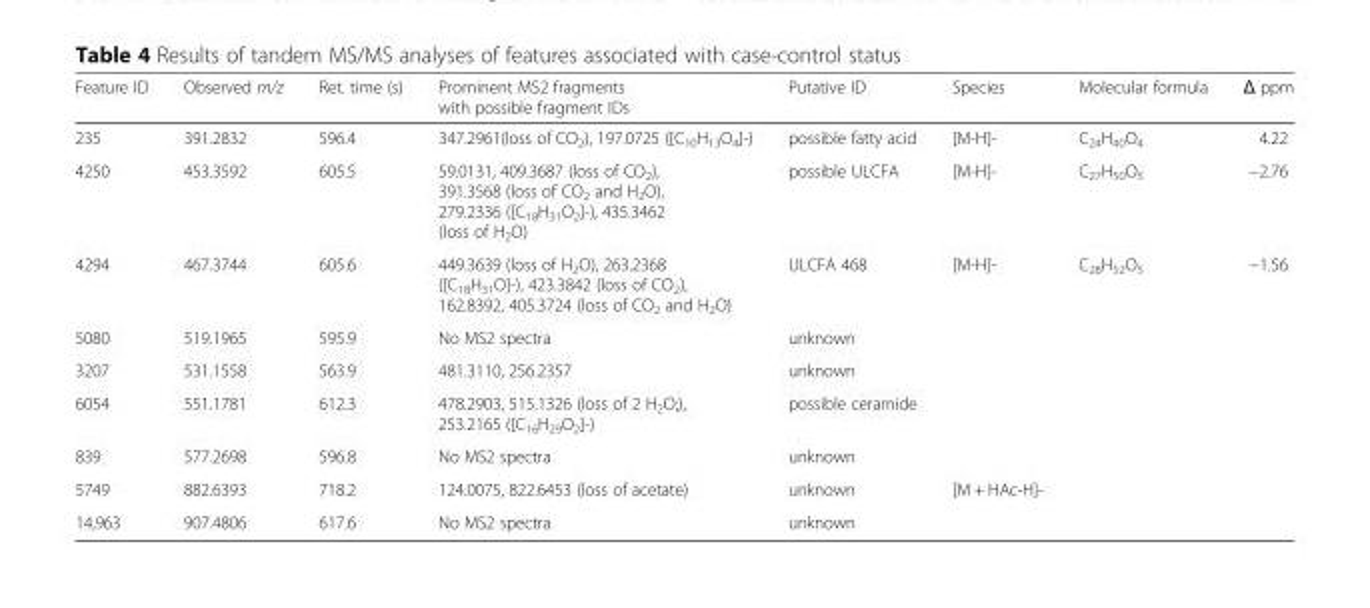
<table><thead><tr><td>Feature ID</td><td>Observed m/z</td><td>Ret. time (s)</td><td>Prominent MS2 fragments with possible fragment IDs</td><td>Putative ID</td><td>Species</td><td>Molecular formula</td><td>Δ ppm</td></tr></thead><tbody><tr><td>235</td><td>391.2832</td><td>596.4</td><td>347.2961(loss of CO<sub>2</sub>), 197.0725 ([C<sub>10</sub>H<sub>13</sub>O<sub>4</sub>]-)</td><td>possible fatty acid</td><td>[M-H]-</td><td>C<sub>24</sub>H<sub>40</sub>O<sub>4</sub></td><td>4.22</td></tr><tr><td>4250</td><td>453.3592</td><td>605.5</td><td>59.0131, 409.3687 (loss of CO<sub>2</sub>), 391.3568 (loss of CO<sub>2</sub> and H<sub>2</sub>O), 279.2336 ([C<sub>18</sub>H<sub>31</sub>O<sub>2</sub>]-), 435.3462 (loss of H<sub>2</sub>O)</td><td>possible ULCFA</td><td>[M-H]-</td><td>C<sub>27</sub>H<sub>50</sub>O<sub>5</sub></td><td>−2.76</td></tr><tr><td>4294</td><td>467.3744</td><td>605.6</td><td>449.3639 (loss of H<sub>2</sub>O), 263.2368 ([C<sub>18</sub>H<sub>31</sub>O]-), 423.3842 (loss of CO<sub>2</sub>), 162.8392, 405.3724 (loss of CO<sub>2</sub> and H<sub>2</sub>O)</td><td>ULCFA 468</td><td>[M-H]-</td><td>C<sub>28</sub>H<sub>52</sub>O<sub>5</sub></td><td>−1.56</td></tr><tr><td>5080</td><td>519.1965</td><td>595.9</td><td>No MS2 spectra</td><td>unknown</td><td></td><td></td><td></td></tr><tr><td>3207</td><td>531.1558</td><td>563.9</td><td>481.3110, 256.2357</td><td>unknown</td><td></td><td></td><td></td></tr><tr><td>6054</td><td>551.1781</td><td>612.3</td><td>478.2903, 515.1326 (loss of 2 H<sub>2</sub>O;), 253.2165 ([C<sub>16</sub>H<sub>29</sub>O<sub>2</sub>]-)</td><td>possible ceramide</td><td></td><td></td><td></td></tr><tr><td>839</td><td>577.2698</td><td>596.8</td><td>No MS2 spectra</td><td>unknown</td><td></td><td></td><td></td></tr><tr><td>5749</td><td>882.6393</td><td>718.2</td><td>124.0075, 822.6453 (loss of acetate)</td><td>unknown</td><td>[M + HAc-H]-</td><td></td><td></td></tr><tr><td>14,963</td><td>907.4806</td><td>617.6</td><td>No MS2 spectra</td><td>unknown</td><td></td><td></td><td></td></tr></tbody></table>